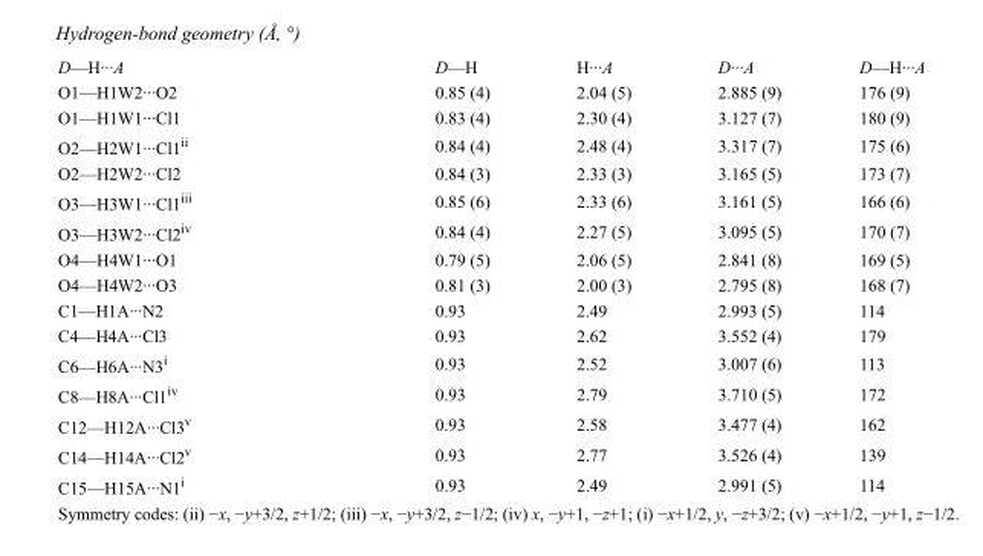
<table><tbody><tr><td>D—H···A</td><td>D—H</td><td>H···A</td><td>D···A</td><td>D—H···A</td></tr><tr><td>O1—H1W2···O2</td><td>0.85 (4)</td><td>2.04 (5)</td><td>2.885 (9)</td><td>176 (9)</td></tr><tr><td>O1—H1W1···Cl1</td><td>0.83 (4)</td><td>2.30 (4)</td><td>3.127 (7)</td><td>180 (9)</td></tr><tr><td>O2—H2W1···Cl1<sup>ii</sup></td><td>0.84 (4)</td><td>2.48 (4)</td><td>3.317 (7)</td><td>175 (6)</td></tr><tr><td>O2—H2W2···Cl2</td><td>0.84 (3)</td><td>2.33 (3)</td><td>3.165 (5)</td><td>173 (7)</td></tr><tr><td>O3—H3W1···Cl1<sup>iii</sup></td><td>0.85 (6)</td><td>2.33 (6)</td><td>3.161 (5)</td><td>166 (6)</td></tr><tr><td>O3—H3W2···Cl2<sup>iv</sup></td><td>0.84 (4)</td><td>2.27 (5)</td><td>3.095 (5)</td><td>170 (7)</td></tr><tr><td>O4—H4W1···O1</td><td>0.79 (5)</td><td>2.06 (5)</td><td>2.841 (8)</td><td>169 (5)</td></tr><tr><td>O4—H4W2···O3</td><td>0.81 (3)</td><td>2.00 (3)</td><td>2.795 (8)</td><td>168 (7)</td></tr><tr><td>C1—H1A···N2</td><td>0.93</td><td>2.49</td><td>2.993 (5)</td><td>114</td></tr><tr><td>C4—H4A···Cl3</td><td>0.93</td><td>2.62</td><td>3.552 (4)</td><td>179</td></tr><tr><td>C6—H6A···N3<sup>i</sup></td><td>0.93</td><td>2.52</td><td>3.007 (6)</td><td>113</td></tr><tr><td>C8—H8A···Cl1<sup>iv</sup></td><td>0.93</td><td>2.79</td><td>3.710 (5)</td><td>172</td></tr><tr><td>C12—H12A···Cl3<sup>v</sup></td><td>0.93</td><td>2.58</td><td>3.477 (4)</td><td>162</td></tr><tr><td>C14—H14A···Cl2<sup>v</sup></td><td>0.93</td><td>2.77</td><td>3.526 (4)</td><td>139</td></tr><tr><td>C15—H15A···N1<sup>i</sup></td><td>0.93</td><td>2.49</td><td>2.991 (5)</td><td>114</td></tr></tbody></table>